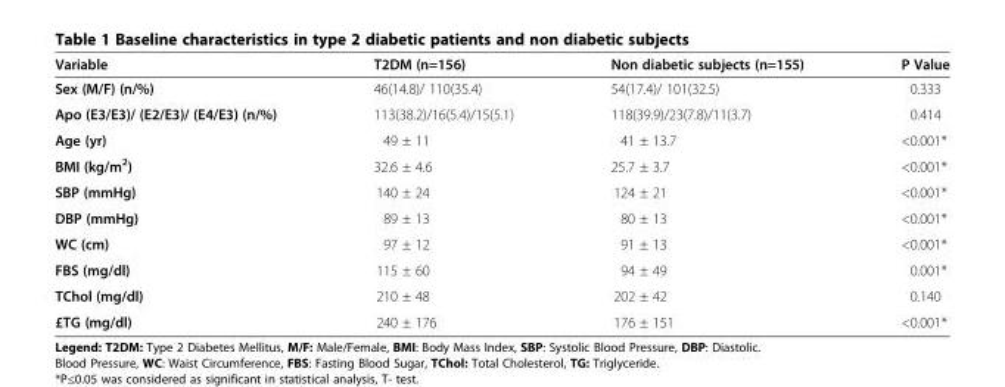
<table><thead><tr><td>Variable</td><td>T2DM (n=156)</td><td>Non diabetic subjects (n=155)</td><td>P Value</td></tr></thead><tbody><tr><td>Sex (M/F) (n/%)</td><td>46(14.8)/ 110(35.4)</td><td>54(17.4)/ 101(32.5)</td><td>0.333</td></tr><tr><td>Apo (E3/E3)/ (E2/E3)/ (E4/E3) (n/%)</td><td>113(38.2)/16(5.4)/15(5.1)</td><td>118(39.9)/23(7.8)/11(3.7)</td><td>0.414</td></tr><tr><td>Age (yr)</td><td>49 ± 11</td><td>41 ± 13.7</td><td>&lt;0.001*</td></tr><tr><td>BMI (kg/m<sup>2</sup>)</td><td>32.6 ± 4.6</td><td>25.7 ± 3.7</td><td>&lt;0.001*</td></tr><tr><td>SBP (mmHg)</td><td>140 ± 24</td><td>124 ± 21</td><td>&lt;0.001*</td></tr><tr><td>DBP (mmHg)</td><td>89 ± 13</td><td>80 ± 13</td><td>&lt;0.001*</td></tr><tr><td>WC (cm)</td><td>97 ± 12</td><td>91 ± 13</td><td>&lt;0.001*</td></tr><tr><td>FBS (mg/dl)</td><td>115 ± 60</td><td>94 ± 49</td><td>0.001*</td></tr><tr><td>TChol (mg/dl)</td><td>210 ± 48</td><td>202 ± 42</td><td>0.140</td></tr><tr><td>£TG (mg/dl)</td><td>240 ± 176</td><td>176 ± 151</td><td>&lt;0.001*</td></tr></tbody></table>